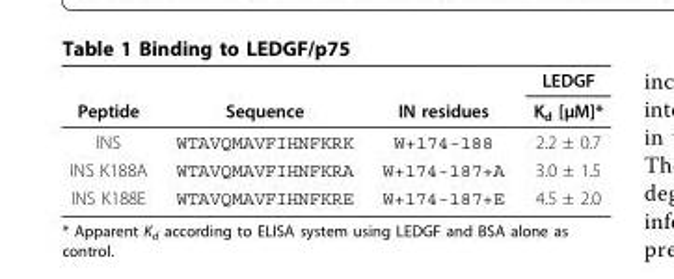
<table><thead><tr><td rowspan="2">Peptide</td><td rowspan="2">Sequence</td><td rowspan="2">IN residues</td><td rowspan="2">LEDGF K<sub>d</sub> [μM]*</td></tr><tr></tr></thead><tbody><tr><td>INS</td><td>WTAVQMAVFIHNFKRK</td><td>W+174-188</td><td>2.2 ± 0.7</td></tr><tr><td>INS K188A</td><td>WTAVQMAVFIHNFKRA</td><td>W+174-187+A</td><td>3.0 ± 1.5</td></tr><tr><td>INS K188E</td><td>WTAVQMAVFIHNFKRE</td><td>W+174-187+E</td><td>4.5 ± 2.0</td></tr></tbody></table>